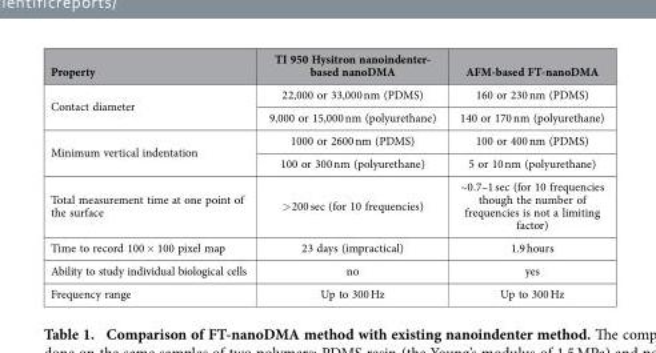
<table><thead><tr><td>Property</td><td>TI 950 Hysitron nanoindenter- based nanoDMA</td><td>AFM-based FT-nanoDMA</td></tr></thead><tbody><tr><td rowspan="2">Contact diameter</td><td>22,000 or 33,000 nm (PDMS)</td><td>160 or 230 nm (PDMS)</td></tr><tr><td>9,000 or 15,000 nm (polyurethane)</td><td>140 or 170 nm (polyurethane)</td></tr><tr><td rowspan="2">Minimum vertical indentation</td><td>1000 or 2600 nm (PDMS)</td><td>100 or 400 nm (PDMS)</td></tr><tr><td>100 or 300 nm (polyurethane)</td><td>5 or 10 nm (polyurethane)</td></tr><tr><td>Total measurement time at one point of the surface</td><td>&gt; 200 sec (for 10 frequencies)</td><td>~0.7–1 sec (for 10 frequencies though the number of frequencies is not a limiting factor)</td></tr><tr><td>Time to record 100 × 100 pixel map</td><td>23 days (impractical)</td><td>1.9 hours</td></tr><tr><td>Ability to study individual biological cells</td><td>no</td><td>yes</td></tr><tr><td>Frequency range</td><td>Up to 300 Hz</td><td>Up to 300 Hz</td></tr></tbody></table>